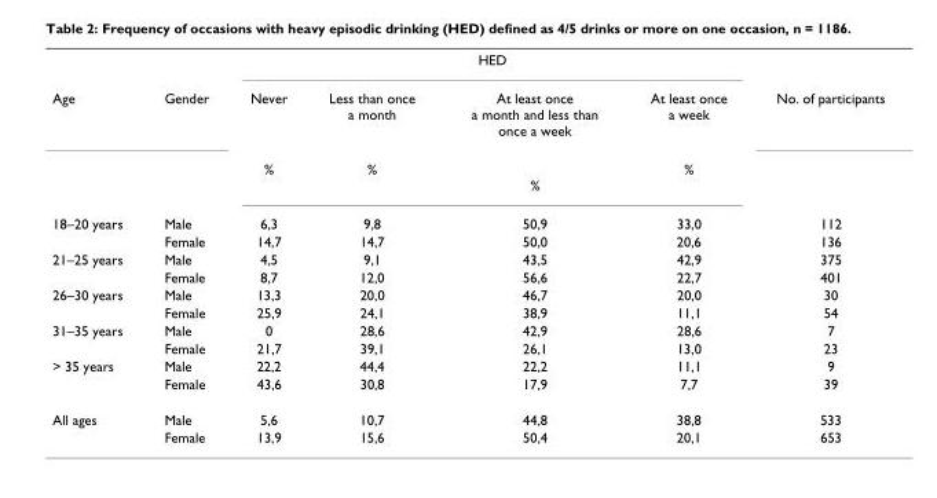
<table><thead><tr><td rowspan="2">Age</td><td rowspan="2">Gender</td><td colspan="4">HED</td><td rowspan="2">No. of participants</td></tr><tr><td>Never</td><td>Less than once a month</td><td>At least once a month and less than once a week</td><td>At least once a week</td></tr></thead><tbody><tr><td></td><td></td><td>%</td><td>%</td><td>%</td><td>%</td><td></td></tr><tr><td rowspan="2">18–20 years</td><td>Male</td><td>6,3</td><td>9,8</td><td>50,9</td><td>33,0</td><td>112</td></tr><tr><td>Female</td><td>14,7</td><td>14,7</td><td>50,0</td><td>20,6</td><td>136</td></tr><tr><td rowspan="2">21–25 years</td><td>Male</td><td>4,5</td><td>9,1</td><td>43,5</td><td>42,9</td><td>375</td></tr><tr><td>Female</td><td>8,7</td><td>12,0</td><td>56,6</td><td>22,7</td><td>401</td></tr><tr><td rowspan="2">26–30 years</td><td>Male</td><td>13,3</td><td>20,0</td><td>46,7</td><td>20,0</td><td>30</td></tr><tr><td>Female</td><td>25,9</td><td>24,1</td><td>38,9</td><td>11,1</td><td>54</td></tr><tr><td rowspan="2">31–35 years</td><td>Male</td><td>0</td><td>28,6</td><td>42,9</td><td>28,6</td><td>7</td></tr><tr><td>Female</td><td>21,7</td><td>39,1</td><td>26,1</td><td>13,0</td><td>23</td></tr><tr><td rowspan="2">&gt; 35 years</td><td>Male</td><td>22,2</td><td>44,4</td><td>22,2</td><td>11,1</td><td>9</td></tr><tr><td>Female</td><td>43,6</td><td>30,8</td><td>17,9</td><td>7,7</td><td>39</td></tr><tr><td rowspan="2">All ages</td><td>Male</td><td>5,6</td><td>10,7</td><td>44,8</td><td>38,8</td><td>533</td></tr><tr><td>Female</td><td>13,9</td><td>15,6</td><td>50,4</td><td>20,1</td><td>653</td></tr></tbody></table>